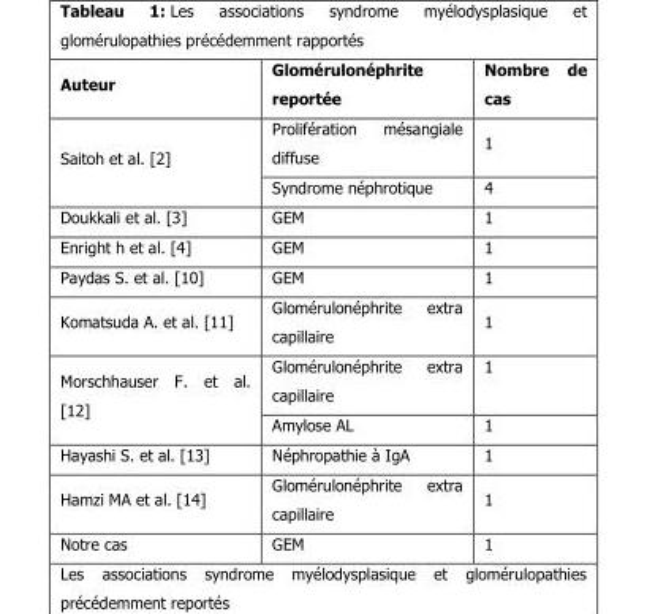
<table><thead><tr><td>Auteur</td><td>Glomérulonéphrite reportée</td><td>Nombre de cas</td></tr></thead><tbody><tr><td rowspan="2">Saitoh et al. [2]</td><td>Prolifération mésangiale diffuse</td><td>1</td></tr><tr><td>Syndrome néphrotique</td><td>4</td></tr><tr><td>Doukkali et al. [3]</td><td>GEM</td><td>1</td></tr><tr><td>Enright h et al. [4]</td><td>GEM</td><td>1</td></tr><tr><td>Paydas S. et al. [10]</td><td>GEM</td><td>1</td></tr><tr><td>Komatsuda A. et al. [11]</td><td>Glomérulonéphrite extra capillaire</td><td>1</td></tr><tr><td rowspan="2">Morschhauser F. et al. [12]</td><td>Glomérulonéphrite extra capillaire</td><td>1</td></tr><tr><td>Amylose AL</td><td>1</td></tr><tr><td>Hayashi S. et al. [13]</td><td>Néphropathie à IgA</td><td>1</td></tr><tr><td>Hamzi MA et al. [14]</td><td>Glomérulonéphrite extra capillaire</td><td>1</td></tr><tr><td>Notre cas</td><td>GEM</td><td>1</td></tr></tbody></table>